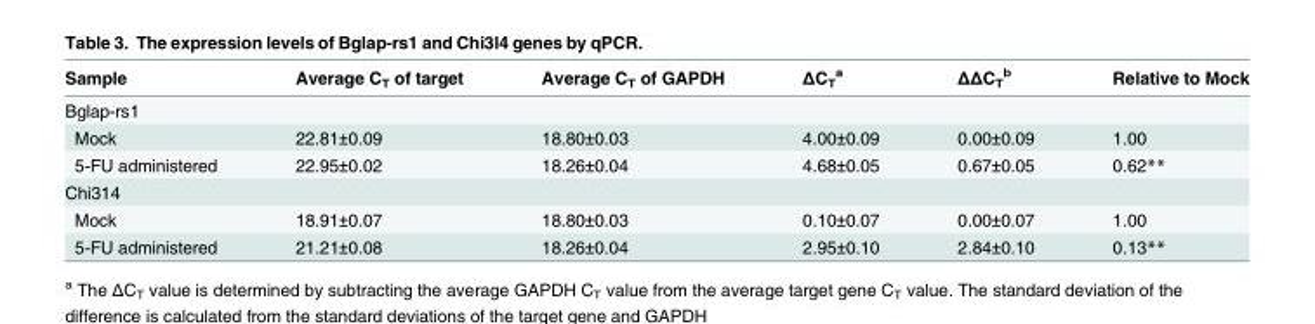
<table><thead><tr><td>Sample</td><td>Average C<sub>T</sub> of target</td><td>Average C<sub>T</sub> of GAPDH</td><td>ΔC<sub>T</sub> <sup>a</sup></td><td>ΔΔC<sub>T</sub> <sup>b</sup></td><td>Relative to Mock</td></tr></thead><tbody><tr><td colspan="6">Bglap-rs1</td></tr><tr><td>Mock</td><td>22.81±0.09</td><td>18.80±0.03</td><td>4.00±0.09</td><td>0.00±0.09</td><td>1.00</td></tr><tr><td>5-FU administered</td><td>22.95±0.02</td><td>18.26±0.04</td><td>4.68±0.05</td><td>0.67±0.05</td><td>0.62**</td></tr><tr><td colspan="6">Chi314</td></tr><tr><td>Mock</td><td>18.91±0.07</td><td>18.80±0.03</td><td>0.10±0.07</td><td>0.00±0.07</td><td>1.00</td></tr><tr><td>5-FU administered</td><td>21.21±0.08</td><td>18.26±0.04</td><td>2.95±0.10</td><td>2.84±0.10</td><td>0.13**</td></tr></tbody></table>